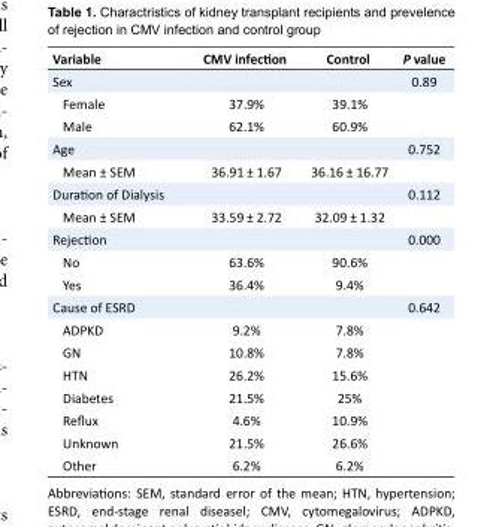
<table><tbody><tr><td>Variable</td><td>CMV infection</td><td>Control</td><td>P value</td></tr><tr><td>Sex</td><td></td><td></td><td>0.89</td></tr><tr><td>Female</td><td>37.9%</td><td>39.1%</td><td></td></tr><tr><td>Male</td><td>62.1%</td><td>60.9%</td><td></td></tr><tr><td>Age</td><td></td><td></td><td>0.752</td></tr><tr><td>Mean ± SEM</td><td>36.91 ± 1.67</td><td>36.16 ± 16.77</td><td></td></tr><tr><td>Duration of Dialysis</td><td></td><td></td><td>0.112</td></tr><tr><td>Mean ± SEM</td><td>33.59 ± 2.72</td><td>32.09 ± 1.32</td><td></td></tr><tr><td>Rejection</td><td></td><td></td><td>0.000</td></tr><tr><td>No</td><td>63.6%</td><td>90.6%</td><td></td></tr><tr><td>Yes</td><td>36.4%</td><td>9.4%</td><td></td></tr><tr><td>Cause of ESRD</td><td></td><td></td><td>0.642</td></tr><tr><td>ADPKD</td><td>9.2%</td><td>7.8%</td><td></td></tr><tr><td>GN</td><td>10.8%</td><td>7.8%</td><td></td></tr><tr><td>HTN</td><td>26.2%</td><td>15.6%</td><td></td></tr><tr><td>Diabetes</td><td>21.5%</td><td>25%</td><td></td></tr><tr><td>Reflux</td><td>4.6%</td><td>10.9%</td><td></td></tr><tr><td>Unknown</td><td>21.5%</td><td>26.6%</td><td></td></tr><tr><td>Other</td><td>6.2%</td><td>6.2%</td><td></td></tr></tbody></table>